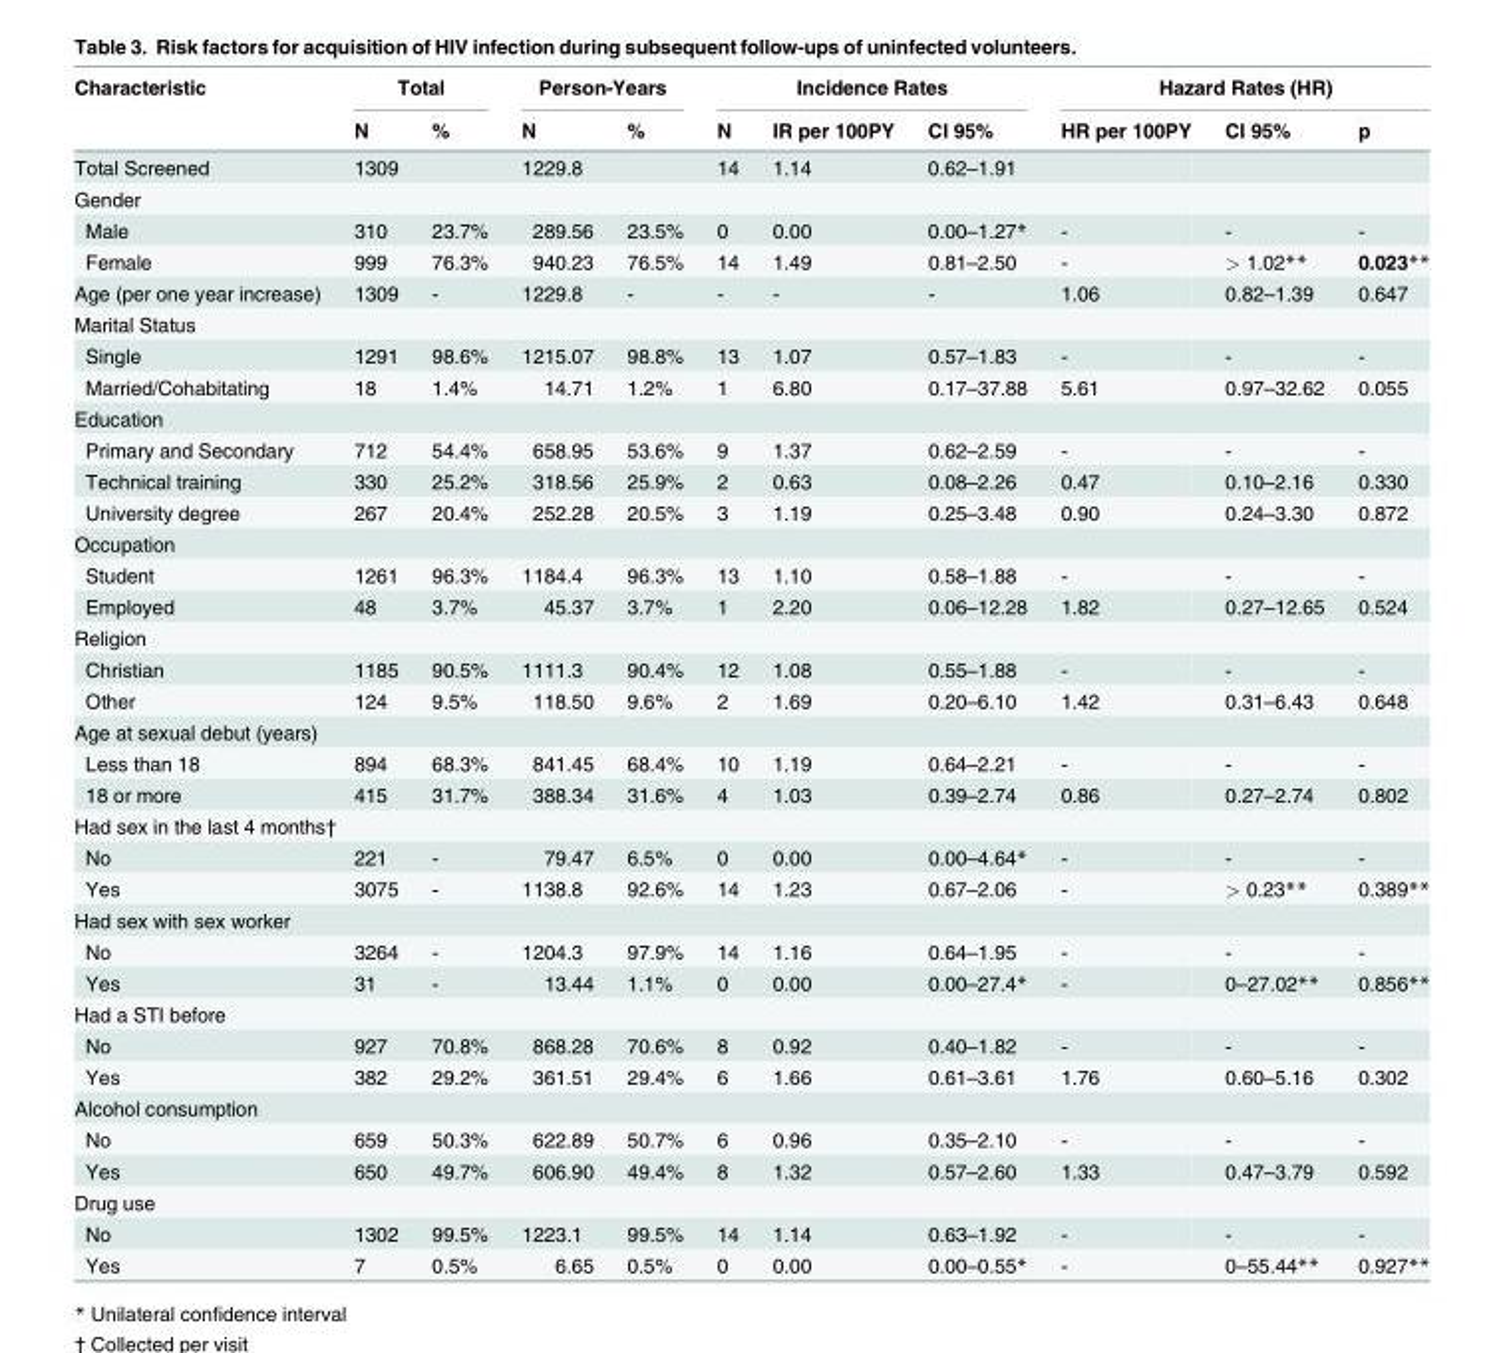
<table><thead><tr><td rowspan="2">Characteristic</td><td colspan="2">Total</td><td colspan="2">Person-Years</td><td colspan="3">Incidence Rates</td><td colspan="3">Hazard Rates (HR)</td></tr><tr><td>N</td><td>%</td><td>N</td><td>%</td><td>N</td><td>IR per 100PY</td><td>CI 95%</td><td>HR per 100PY</td><td>CI 95%</td><td>p</td></tr></thead><tbody><tr><td>Total Screened</td><td>1309</td><td></td><td>1229.8</td><td></td><td>14</td><td>1.14</td><td>0.62–1.91</td><td></td><td></td><td></td></tr><tr><td colspan="11">Gender</td></tr><tr><td>Male</td><td>310</td><td>23.7%</td><td>289.56</td><td>23.5%</td><td>0</td><td>0.00</td><td>0.00–1.27*</td><td>-</td><td>-</td><td>-</td></tr><tr><td>Female</td><td>999</td><td>76.3%</td><td>940.23</td><td>76.5%</td><td>14</td><td>1.49</td><td>0.81–2.50</td><td>-</td><td>&gt; 1.02**</td><td>0.023**</td></tr><tr><td>Age (per one year increase)</td><td>1309</td><td>-</td><td>1229.8</td><td>-</td><td>-</td><td>-</td><td>-</td><td>1.06</td><td>0.82–1.39</td><td>0.647</td></tr><tr><td colspan="11">Marital Status</td></tr><tr><td>Single</td><td>1291</td><td>98.6%</td><td>1215.07</td><td>98.8%</td><td>13</td><td>1.07</td><td>0.57–1.83</td><td>-</td><td>-</td><td>-</td></tr><tr><td>Married/Cohabitating</td><td>18</td><td>1.4%</td><td>14.71</td><td>1.2%</td><td>1</td><td>6.80</td><td>0.17–37.88</td><td>5.61</td><td>0.97–32.62</td><td>0.055</td></tr><tr><td colspan="11">Education</td></tr><tr><td>Primary and Secondary</td><td>712</td><td>54.4%</td><td>658.95</td><td>53.6%</td><td>9</td><td>1.37</td><td>0.62–2.59</td><td>-</td><td>-</td><td>-</td></tr><tr><td>Technical training</td><td>330</td><td>25.2%</td><td>318.56</td><td>25.9%</td><td>2</td><td>0.63</td><td>0.08–2.26</td><td>0.47</td><td>0.10–2.16</td><td>0.330</td></tr><tr><td>University degree</td><td>267</td><td>20.4%</td><td>252.28</td><td>20.5%</td><td>3</td><td>1.19</td><td>0.25–3.48</td><td>0.90</td><td>0.24–3.30</td><td>0.872</td></tr><tr><td colspan="11">Occupation</td></tr><tr><td>Student</td><td>1261</td><td>96.3%</td><td>1184.4</td><td>96.3%</td><td>13</td><td>1.10</td><td>0.58–1.88</td><td>-</td><td>-</td><td>-</td></tr><tr><td>Employed</td><td>48</td><td>3.7%</td><td>45.37</td><td>3.7%</td><td>1</td><td>2.20</td><td>0.06–12.28</td><td>1.82</td><td>0.27–12.65</td><td>0.524</td></tr><tr><td colspan="11">Religion</td></tr><tr><td>Christian</td><td>1185</td><td>90.5%</td><td>1111.3</td><td>90.4%</td><td>12</td><td>1.08</td><td>0.55–1.88</td><td>-</td><td>-</td><td>-</td></tr><tr><td>Other</td><td>124</td><td>9.5%</td><td>118.50</td><td>9.6%</td><td>2</td><td>1.69</td><td>0.20–6.10</td><td>1.42</td><td>0.31–6.43</td><td>0.648</td></tr><tr><td colspan="11">Age at sexual debut (years)</td></tr><tr><td>Less than 18</td><td>894</td><td>68.3%</td><td>841.45</td><td>68.4%</td><td>10</td><td>1.19</td><td>0.64–2.21</td><td>-</td><td>-</td><td>-</td></tr><tr><td>18 or more</td><td>415</td><td>31.7%</td><td>388.34</td><td>31.6%</td><td>4</td><td>1.03</td><td>0.39–2.74</td><td>0.86</td><td>0.27–2.74</td><td>0.802</td></tr><tr><td colspan="11">Had sex in the last 4 months†</td></tr><tr><td>No</td><td>221</td><td>-</td><td>79.47</td><td>6.5%</td><td>0</td><td>0.00</td><td>0.00–4.64*</td><td>-</td><td>-</td><td>-</td></tr><tr><td>Yes</td><td>3075</td><td>-</td><td>1138.8</td><td>92.6%</td><td>14</td><td>1.23</td><td>0.67–2.06</td><td>-</td><td>&gt; 0.23**</td><td>0.389**</td></tr><tr><td colspan="11">Had sex with sex worker</td></tr><tr><td>No</td><td>3264</td><td>-</td><td>1204.3</td><td>97.9%</td><td>14</td><td>1.16</td><td>0.64–1.95</td><td>-</td><td>-</td><td>-</td></tr><tr><td>Yes</td><td>31</td><td>-</td><td>13.44</td><td>1.1%</td><td>0</td><td>0.00</td><td>0.00–27.4*</td><td>-</td><td>0–27.02**</td><td>0.856**</td></tr><tr><td colspan="11">Had a STI before</td></tr><tr><td>No</td><td>927</td><td>70.8%</td><td>868.28</td><td>70.6%</td><td>8</td><td>0.92</td><td>0.40–1.82</td><td>-</td><td>-</td><td>-</td></tr><tr><td>Yes</td><td>382</td><td>29.2%</td><td>361.51</td><td>29.4%</td><td>6</td><td>1.66</td><td>0.61–3.61</td><td>1.76</td><td>0.60–5.16</td><td>0.302</td></tr><tr><td colspan="11">Alcohol consumption</td></tr><tr><td>No</td><td>659</td><td>50.3%</td><td>622.89</td><td>50.7%</td><td>6</td><td>0.96</td><td>0.35–2.10</td><td>-</td><td>-</td><td>-</td></tr><tr><td>Yes</td><td>650</td><td>49.7%</td><td>606.90</td><td>49.4%</td><td>8</td><td>1.32</td><td>0.57–2.60</td><td>1.33</td><td>0.47–3.79</td><td>0.592</td></tr><tr><td colspan="11">Drug use</td></tr><tr><td>No</td><td>1302</td><td>99.5%</td><td>1223.1</td><td>99.5%</td><td>14</td><td>1.14</td><td>0.63–1.92</td><td>-</td><td>-</td><td>-</td></tr><tr><td>Yes</td><td>7</td><td>0.5%</td><td>6.65</td><td>0.5%</td><td>0</td><td>0.00</td><td>0.00–0.55*</td><td>-</td><td>0–55.44**</td><td>0.927**</td></tr></tbody></table>